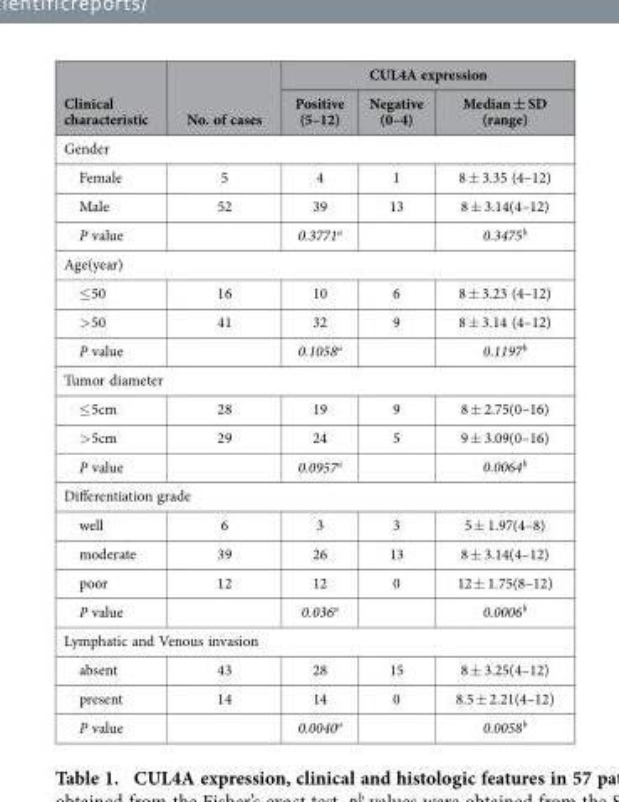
<table><thead><tr><td rowspan="2">Clinical characteristic</td><td rowspan="2">No. of cases</td><td colspan="3">CUL4A expression</td></tr><tr><td>Positive (5–12)</td><td>Negative (0–4)</td><td>Median ± SD (range)</td></tr></thead><tbody><tr><td colspan="5">Gender</td></tr><tr><td>Female</td><td>5</td><td>4</td><td>1</td><td>8 ± 3.35 (4–12)</td></tr><tr><td>Male</td><td>52</td><td>39</td><td>13</td><td>8 ± 3.14(4–12)</td></tr><tr><td>P value</td><td></td><td>0.3771<sup>a</sup></td><td></td><td>0.3475<sup>b</sup></td></tr><tr><td colspan="5">Age(year)</td></tr><tr><td>≤ 50</td><td>16</td><td>10</td><td>6</td><td>8 ± 3.23 (4–12)</td></tr><tr><td>&gt; 50</td><td>41</td><td>32</td><td>9</td><td>8 ± 3.14 (4–12)</td></tr><tr><td>P value</td><td></td><td>0.1058<sup>a</sup></td><td></td><td>0.1197<sup>b</sup></td></tr><tr><td colspan="5">Tumor diameter</td></tr><tr><td>≤ 5cm</td><td>28</td><td>19</td><td>9</td><td>8 ± 2.75(0–16)</td></tr><tr><td>&gt; 5cm</td><td>29</td><td>24</td><td>5</td><td>9 ± 3.09(0–16)</td></tr><tr><td>P value</td><td></td><td>0.0957<sup>a</sup></td><td></td><td>0.0064<sup>b</sup></td></tr><tr><td colspan="5">Differentiation grade</td></tr><tr><td>well</td><td>6</td><td>3</td><td>3</td><td>5 ± 1.97(4–8)</td></tr><tr><td>moderate</td><td>39</td><td>26</td><td>13</td><td>8 ± 3.14(4–12)</td></tr><tr><td>poor</td><td>12</td><td>12</td><td>0</td><td>12 ± 1.75(8–12)</td></tr><tr><td>P value</td><td></td><td>0.036<sup>a</sup></td><td></td><td>0.0006<sup>b</sup></td></tr><tr><td colspan="5">Lymphatic and Venous invasion</td></tr><tr><td>absent</td><td>43</td><td>28</td><td>15</td><td>8 ± 3.25(4–12)</td></tr><tr><td>present</td><td>14</td><td>14</td><td>0</td><td>8.5 ± 2.21(4–12)</td></tr><tr><td>P value</td><td></td><td>0.0040<sup>a</sup></td><td></td><td>0.0058<sup>b</sup></td></tr></tbody></table>